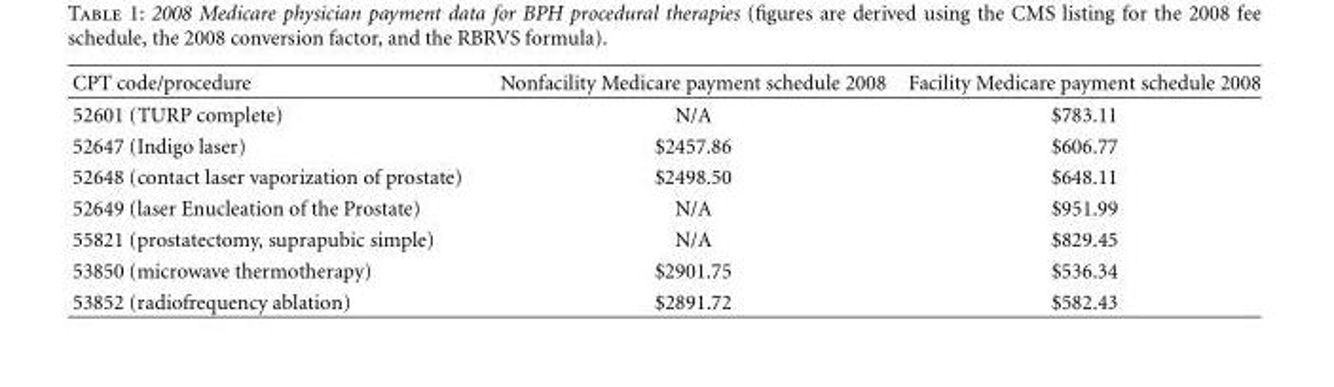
<table><thead><tr><td>CPT code/procedure</td><td>Nonfacility Medicare payment schedule 2008</td><td>Facility Medicare payment schedule 2008</td></tr></thead><tbody><tr><td>52601 (TURP complete)</td><td>N/A</td><td>$783.11</td></tr><tr><td>52647 (Indigo laser)</td><td>$2457.86</td><td>$606.77</td></tr><tr><td>52648 (contact laser vaporization of prostate)</td><td>$2498.50</td><td>$648.11</td></tr><tr><td>52649 (laser Enucleation of the Prostate)</td><td>N/A</td><td>$951.99</td></tr><tr><td>55821 (prostatectomy, suprapubic simple)</td><td>N/A</td><td>$829.45</td></tr><tr><td>53850 (microwave thermotherapy)</td><td>$2901.75</td><td>$536.34</td></tr><tr><td>53852 (radiofrequency ablation)</td><td>$2891.72</td><td>$582.43</td></tr></tbody></table>